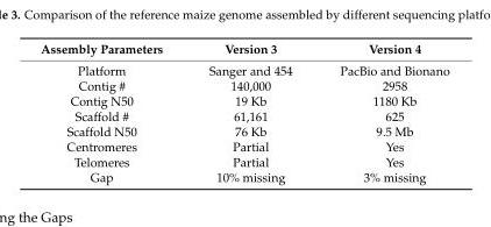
<table><thead><tr><td>Assembly Parameters</td><td>Version 3</td><td>Version 4</td></tr></thead><tbody><tr><td>Platform</td><td>Sanger and 454</td><td>PacBio and Bionano</td></tr><tr><td>Contig #</td><td>140,000</td><td>2958</td></tr><tr><td>Contig N50</td><td>19 Kb</td><td>1180 Kb</td></tr><tr><td>Scaffold #</td><td>61,161</td><td>625</td></tr><tr><td>Scaffold N50</td><td>76 Kb</td><td>9.5 Mb</td></tr><tr><td>Centromeres</td><td>Partial</td><td>Yes</td></tr><tr><td>Telomeres</td><td>Partial</td><td>Yes</td></tr><tr><td>Gap</td><td>10% missing</td><td>3% missing</td></tr></tbody></table>